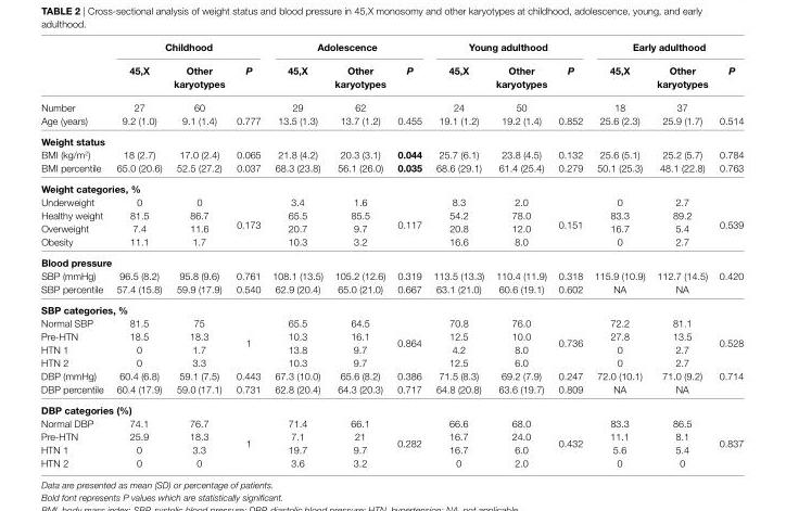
<table><thead><tr><td rowspan="2"></td><td colspan="3">childhood</td><td colspan="3">adolescence</td><td colspan="3">Young adulthood</td><td colspan="3">early adulthood</td></tr><tr><td>45,X</td><td>Other karyotypes</td><td>P</td><td>45,X</td><td>Other karyotypes</td><td>P</td><td>45,X</td><td>Other karyotypes</td><td>P</td><td>45,X</td><td>Other karyotypes</td><td>P</td></tr></thead><tbody><tr><td>Number</td><td>27</td><td>60</td><td></td><td>29</td><td>62</td><td></td><td>24</td><td>50</td><td></td><td>18</td><td>37</td><td></td></tr><tr><td>Age (years)</td><td>9.2 (1.0)</td><td>9.1 (1.4)</td><td>0.777</td><td>13.5 (1.3)</td><td>13.7 (1.2)</td><td>0.455</td><td>19.1 (1.2)</td><td>19.2 (1.4)</td><td>0.852</td><td>25.6 (2.3)</td><td>25.9 (1.7)</td><td>0.514</td></tr><tr><td colspan="13">Weight status</td></tr><tr><td>BMI (kg/m<sup>2</sup>)</td><td>18 (2.7)</td><td>17.0 (2.4)</td><td>0.065</td><td>21.8 (4.2)</td><td>20.3 (3.1)</td><td>0.044</td><td>25.7 (6.1)</td><td>23.8 (4.5)</td><td>0.132</td><td>25.6 (5.1)</td><td>25.2 (5.7)</td><td>0.784</td></tr><tr><td>BMI percentile</td><td>65.0 (20.6)</td><td>52.5 (27.2)</td><td>0.037</td><td>68.3 (23.8)</td><td>56.1 (26.0)</td><td>0.035</td><td>68.6 (29.1)</td><td>61.4 (25.4)</td><td>0.279</td><td>50.1 (25.3)</td><td>48.1 (22.8)</td><td>0.763</td></tr><tr><td colspan="13">Weight categories, %</td></tr><tr><td>Underweight</td><td>0</td><td>0</td><td rowspan="4">0.173</td><td>3.4</td><td>1.6</td><td rowspan="4">0.117</td><td>8.3</td><td>2.0</td><td rowspan="4">0.151</td><td>0</td><td>2.7</td><td rowspan="4">0.539</td></tr><tr><td>Healthy weight</td><td>81.5</td><td>86.7</td><td>65.5</td><td>85.5</td><td>54.2</td><td>78.0</td><td>83.3</td><td>89.2</td></tr><tr><td>Overweight</td><td>7.4</td><td>11.6</td><td>20.7</td><td>9.7</td><td>20.8</td><td>12.0</td><td>16.7</td><td>5.4</td></tr><tr><td>Obesity</td><td>11.1</td><td>1.7</td><td>10.3</td><td>3.2</td><td>16.6</td><td>8.0</td><td>0</td><td>2.7</td></tr><tr><td colspan="13">blood pressure</td></tr><tr><td>SBP (mmHg)</td><td>96.5 (8.2)</td><td>95.8 (9.6)</td><td>0.761</td><td>108.1 (13.5)</td><td>105.2 (12.6)</td><td>0.319</td><td>113.5 (13.3)</td><td>110.4 (11.9)</td><td>0.318</td><td>115.9 (10.9)</td><td>112.7 (14.5)</td><td>0.420</td></tr><tr><td>SBP percentile</td><td>57.4 (15.8)</td><td>59.9 (17.9)</td><td>0.540</td><td>62.9 (20.4)</td><td>65.0 (21.0)</td><td>0.667</td><td>63.1 (21.0)</td><td>60.6 (19.1)</td><td>0.602</td><td>NA</td><td>NA</td><td></td></tr><tr><td colspan="13">sbP categories, %</td></tr><tr><td>Normal SBP</td><td>81.5</td><td>75</td><td rowspan="4">1</td><td>65.5</td><td>64.5</td><td rowspan="4">0.864</td><td>70.8</td><td>76.0</td><td rowspan="4">0.736</td><td>72.2</td><td>81.1</td><td rowspan="4">0.528</td></tr><tr><td>Pre-HTN</td><td>18.5</td><td>18.3</td><td>10.3</td><td>16.1</td><td>12.5</td><td>10.0</td><td>27.8</td><td>13.5</td></tr><tr><td>HTN 1</td><td>0</td><td>1.7</td><td>13.8</td><td>9.7</td><td>4.2</td><td>8.0</td><td>0</td><td>2.7</td></tr><tr><td>HTN 2</td><td>0</td><td>3.3</td><td>10.3</td><td>9.7</td><td>12.5</td><td>6.0</td><td>0</td><td>2.7</td></tr><tr><td>DBP (mmHg)</td><td>60.4 (6.8)</td><td>59.1 (7.5)</td><td>0.443</td><td>67.3 (10.0)</td><td>65.6 (8.2)</td><td>0.386</td><td>71.5 (8.3)</td><td>69.2 (7.9)</td><td>0.247</td><td>72.0 (10.1)</td><td>71.0 (9.2)</td><td>0.714</td></tr><tr><td>DBP percentile</td><td>60.4 (17.9)</td><td>59.0 (17.1)</td><td>0.731</td><td>62.8 (20.4)</td><td>64.3 (20.3)</td><td>0.717</td><td>64.8 (20.8)</td><td>63.6 (19.7)</td><td>0.809</td><td>NA</td><td>NA</td><td></td></tr><tr><td colspan="13">DbP categories (%)</td></tr><tr><td>Normal DBP</td><td>74.1</td><td>76.7</td><td rowspan="4">1</td><td>71.4</td><td>66.1</td><td rowspan="4">0.282</td><td>66.6</td><td>68.0</td><td rowspan="4">0.432</td><td>83.3</td><td>86.5</td><td rowspan="4">0.837</td></tr><tr><td>Pre-HTN</td><td>25.9</td><td>18.3</td><td>7.1</td><td>21</td><td>16.7</td><td>24.0</td><td>11.1</td><td>8.1</td></tr><tr><td>HTN 1</td><td>0</td><td>3.3</td><td>19.7</td><td>9.7</td><td>16.7</td><td>6.0</td><td>5.6</td><td>5.4</td></tr><tr><td>HTN 2</td><td>0</td><td>0</td><td>3.6</td><td>3.2</td><td>0</td><td>2.0</td><td>0</td><td>0</td></tr></tbody></table>